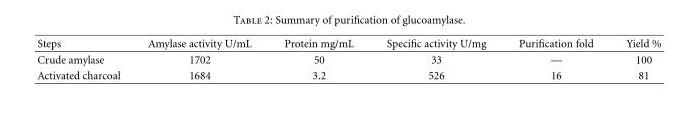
<table><thead><tr><td>Steps</td><td>Amylase activity U/mL</td><td>Protein mg/mL</td><td>Specific activity U/mg</td><td>Purification fold</td><td>Yield %</td></tr></thead><tbody><tr><td>Crude amylase</td><td>1702</td><td>50</td><td>33</td><td>—</td><td>100</td></tr><tr><td>Activated charcoal</td><td>1684</td><td>3.2</td><td>526</td><td>16</td><td>81</td></tr></tbody></table>